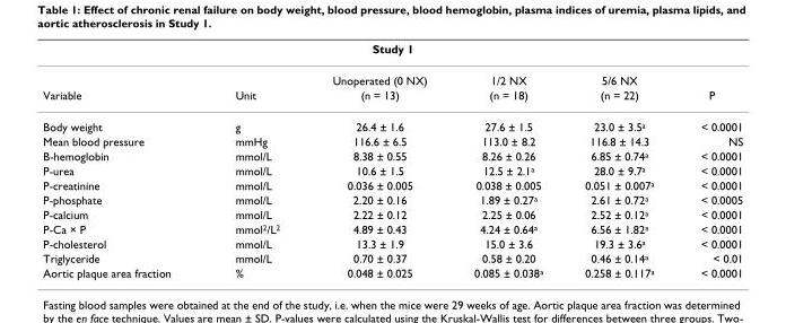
<table><thead><tr><td colspan="6">Study 1</td></tr><tr><td></td><td></td><td>Unoperated (0 NX)</td><td>1/2 NX</td><td>5/6 NX</td><td></td></tr></thead><tbody><tr><td>Variable</td><td>Unit</td><td>(n = 13)</td><td>(n = 18)</td><td>(n = 22)</td><td>P</td></tr><tr><td>Body weight</td><td>g</td><td>26.4 ± 1.6</td><td>27.6 ± 1.5</td><td>23.0 ± 3.5<sup>a</sup></td><td>&lt; 0.0001</td></tr><tr><td>Mean blood pressure</td><td>mmHg</td><td>116.6 ± 6.5</td><td>113.0 ± 8.2</td><td>116.8 ± 14.3</td><td>NS</td></tr><tr><td>B-hemoglobin</td><td>mmol/L</td><td>8.38 ± 0.55</td><td>8.26 ± 0.26</td><td>6.85 ± 0.74<sup>a</sup></td><td>&lt; 0.0001</td></tr><tr><td>P-urea</td><td>mmol/L</td><td>10.6 ± 1.5</td><td>12.5 ± 2.1<sup>a</sup></td><td>28.0 ± 9.7<sup>a</sup></td><td>&lt; 0.0001</td></tr><tr><td>P-creatinine</td><td>mmol/L</td><td>0.036 ± 0.005</td><td>0.038 ± 0.005</td><td>0.051 ± 0.007<sup>a</sup></td><td>&lt; 0.0001</td></tr><tr><td>P-phosphate</td><td>mmol/L</td><td>2.20 ± 0.16</td><td>1.89 ± 0.27<sup>a</sup></td><td>2.61 ± 0.72<sup>a</sup></td><td>&lt; 0.0005</td></tr><tr><td>P-calcium</td><td>mmol/L</td><td>2.22 ± 0.12</td><td>2.25 ± 0.06</td><td>2.52 ± 0.12<sup>a</sup></td><td>&lt; 0.0001</td></tr><tr><td>P-Ca × P</td><td>mmol<sup>2</sup>/L<sup>2</sup></td><td>4.89 ± 0.43</td><td>4.24 ± 0.64<sup>a</sup></td><td>6.56 ± 1.82<sup>a</sup></td><td>&lt; 0.0001</td></tr><tr><td>P-cholesterol</td><td>mmol/L</td><td>13.3 ± 1.9</td><td>15.0 ± 3.6</td><td>19.3 ± 3.6<sup>a</sup></td><td>&lt; 0.0001</td></tr><tr><td>Triglyceride</td><td>mmol/L</td><td>0.70 ± 0.37</td><td>0.58 ± 0.20</td><td>0.46 ± 0.14<sup>a</sup></td><td>&lt; 0.01</td></tr><tr><td>Aortic plaque area fraction</td><td>%</td><td>0.048 ± 0.025</td><td>0.085 ± 0.038<sup>a</sup></td><td>0.258 ± 0.117<sup>a</sup></td><td>&lt; 0.0001</td></tr></tbody></table>